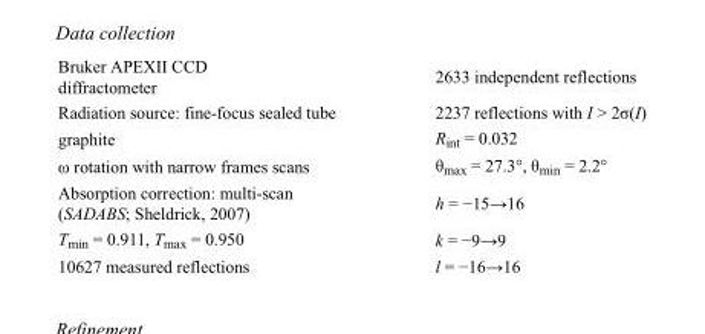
<table><tbody><tr><td>Bruker APEXII CCD diffractometer</td><td>2633 independent reflections</td></tr><tr><td>Radiation source: fine-focus sealed tube</td><td>2237 reflections with I &gt; 2σ(I)</td></tr><tr><td>graphite</td><td>R<sub>int</sub> = 0.032</td></tr><tr><td>ω rotation with narrow frames scans</td><td>θ<sub>max</sub> = 27.3°, θ<sub>min</sub> = 2.2°</td></tr><tr><td>Absorption correction: multi-scan (SADABS; Sheldrick, 2007)</td><td>h = −15→16</td></tr><tr><td>T<sub>min</sub> = 0.911, T<sub>max</sub> = 0.950</td><td>k = −9→9</td></tr><tr><td>10627 measured reflections</td><td>l = −16→16</td></tr></tbody></table>